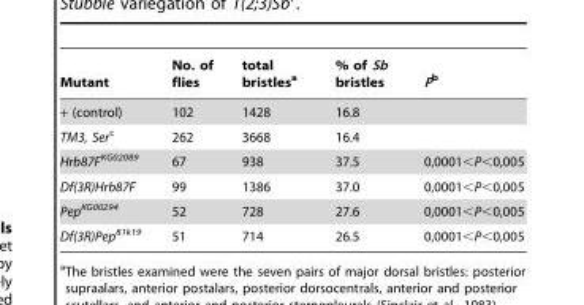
<table><thead><tr><td>Mutant</td><td>No. of flies</td><td>total bristles<sup>a</sup></td><td>% of Sb bristles</td><td>Pb</td></tr></thead><tbody><tr><td>+ (control)</td><td>102</td><td>1428</td><td>16.8</td><td></td></tr><tr><td>TM3, Serc</td><td>262</td><td>3668</td><td>16.4</td><td></td></tr><tr><td>Hrb87F<sup>KG02089</sup></td><td>67</td><td>938</td><td>37.5</td><td>0,0001&lt;P&lt;0,005</td></tr><tr><td>Df(3R)Hrb87F</td><td>99</td><td>1386</td><td>37.0</td><td>0,0001&lt;P&lt;0,005</td></tr><tr><td>Pep<sup>KG00294</sup></td><td>52</td><td>728</td><td>27.6</td><td>0,0001&lt;P&lt;0,005</td></tr><tr><td>Df(3R)Pep<sup>81k19</sup></td><td>51</td><td>714</td><td>26.5</td><td>0,0001&lt;P&lt;0,005</td></tr></tbody></table>